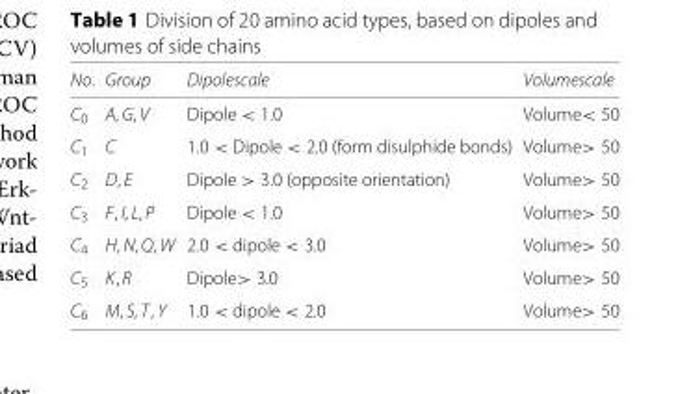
<table><thead><tr><td>No.</td><td>Group</td><td>Dipolescale</td><td>Volumescale</td></tr></thead><tbody><tr><td>C<sub>0</sub></td><td>A, G, V</td><td>Dipole &lt; 1.0</td><td>Volume&lt; 50</td></tr><tr><td>C<sub>1</sub></td><td>C</td><td>1.0 &lt; Dipole &lt; 2.0 (form disulphide bonds)</td><td>Volume&gt; 50</td></tr><tr><td>C<sub>2</sub></td><td>D, E</td><td>Dipole &gt; 3.0 (opposite orientation)</td><td>Volume&gt; 50</td></tr><tr><td>C<sub>3</sub></td><td>F, I, L, P</td><td>Dipole &lt; 1.0</td><td>Volume&gt; 50</td></tr><tr><td>C<sub>4</sub></td><td>H, N, Q, W</td><td>2.0 &lt; dipole &lt; 3.0</td><td>Volume&gt; 50</td></tr><tr><td>C<sub>5</sub></td><td>K, R</td><td>Dipole&gt; 3.0</td><td>Volume&gt; 50</td></tr><tr><td>C<sub>6</sub></td><td>M, S, T, Y</td><td>1.0 &lt; dipole &lt; 2.0</td><td>Volume&gt; 50</td></tr></tbody></table>